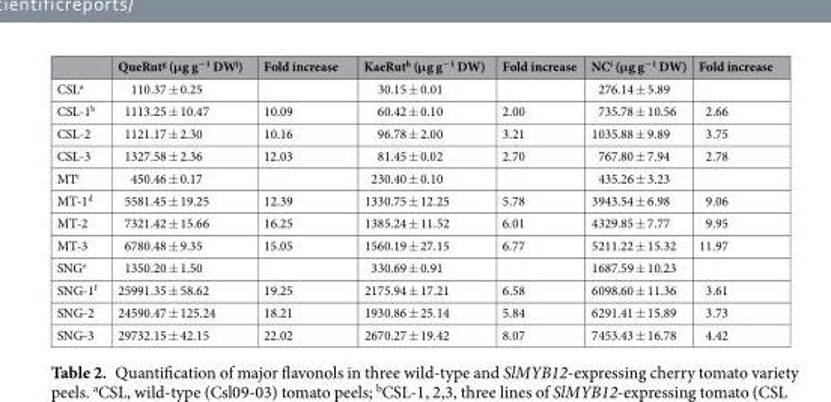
<table><thead><tr><td></td><td>QueRut<sup>g</sup> (μg g<sup>−1</sup> DW<sup>j</sup>)</td><td>Fold increase</td><td>KaeRut<sup>h</sup> (μg g<sup>−1</sup> DW)</td><td>Fold increase</td><td>NC<sup>i</sup> (μg g<sup>−1</sup> DW)</td><td>Fold increase</td></tr></thead><tbody><tr><td>CSL<sup>a</sup></td><td>110.37 ± 0.25</td><td></td><td>30.15 ± 0.01</td><td></td><td>276.14 ± 5.89</td><td></td></tr><tr><td>CSL-1<sup>b</sup></td><td>1113.25 ± 10.47</td><td>10.09</td><td>60.42 ± 0.10</td><td>2.00</td><td>735.78 ± 10.56</td><td>2.66</td></tr><tr><td>CSL-2</td><td>1121.17 ± 2.30</td><td>10.16</td><td>96.78 ± 2.00</td><td>3.21</td><td>1035.88 ± 9.89</td><td>3.75</td></tr><tr><td>CSL-3</td><td>1327.58 ± 2.36</td><td>12.03</td><td>81.45 ± 0.02</td><td>2.70</td><td>767.80 ± 7.94</td><td>2.78</td></tr><tr><td>MT<sup>c</sup></td><td>450.46 ± 0.17</td><td></td><td>230.40 ± 0.10</td><td></td><td>435.26 ± 3.23</td><td></td></tr><tr><td>MT-1<sup>d</sup></td><td>5581.45 ± 19.25</td><td>12.39</td><td>1330.75 ± 12.25</td><td>5.78</td><td>3943.54 ± 6.98</td><td>9.06</td></tr><tr><td>MT-2</td><td>7321.42 ± 15.66</td><td>16.25</td><td>1385.24 ± 11.52</td><td>6.01</td><td>4329.85 ± 7.77</td><td>9.95</td></tr><tr><td>MT-3</td><td>6780.48 ± 9.35</td><td>15.05</td><td>1560.19 ± 27.15</td><td>6.77</td><td>5211.22 ± 15.32</td><td>11.97</td></tr><tr><td>SNG<sup>e</sup></td><td>1350.20 ± 1.50</td><td></td><td>330.69 ± 0.91</td><td></td><td>1687.59 ± 10.23</td><td></td></tr><tr><td>SNG-1<sup>f</sup></td><td>25991.35 ± 58.62</td><td>19.25</td><td>2175.94 ± 17.21</td><td>6.58</td><td>6098.60 ± 11.36</td><td>3.61</td></tr><tr><td>SNG-2</td><td>24590.47 ± 125.24</td><td>18.21</td><td>1930.86 ± 25.14</td><td>5.84</td><td>6291.41 ± 15.89</td><td>3.73</td></tr><tr><td>SNG-3</td><td>29732.15 ± 42.15</td><td>22.02</td><td>2670.27 ± 19.42</td><td>8.07</td><td>7453.43 ± 16.78</td><td>4.42</td></tr></tbody></table>